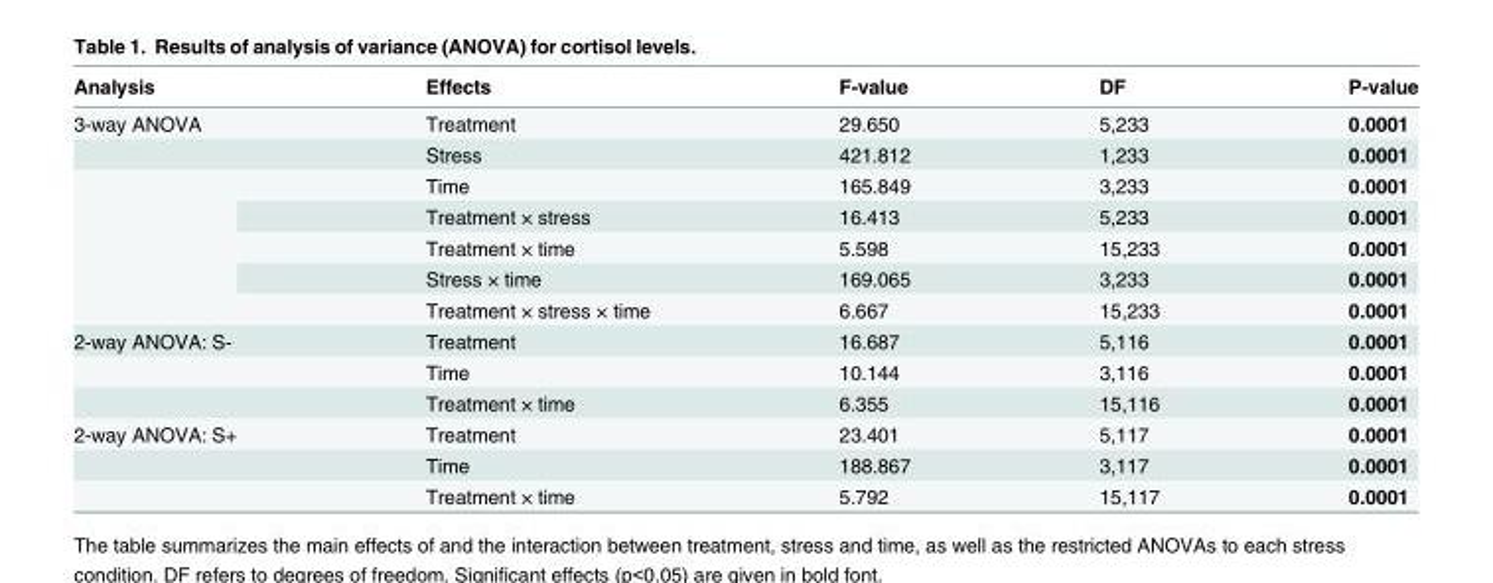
<table><thead><tr><td>Analysis</td><td>Effects</td><td>F-value</td><td>DF</td><td>P-value</td></tr></thead><tbody><tr><td rowspan="7">3-way ANOVA</td><td>Treatment</td><td>29.650</td><td>5,233</td><td>0.0001</td></tr><tr><td>Stress</td><td>421.812</td><td>1,233</td><td>0.0001</td></tr><tr><td>Time</td><td>165.849</td><td>3,233</td><td>0.0001</td></tr><tr><td>Treatment × stress</td><td>16.413</td><td>5,233</td><td>0.0001</td></tr><tr><td>Treatment × time</td><td>5.598</td><td>15,233</td><td>0.0001</td></tr><tr><td>Stress × time</td><td>169.065</td><td>3,233</td><td>0.0001</td></tr><tr><td>Treatment × stress × time</td><td>6.667</td><td>15,233</td><td>0.0001</td></tr><tr><td rowspan="3">2-way ANOVA: S-</td><td>Treatment</td><td>16.687</td><td>5,116</td><td>0.0001</td></tr><tr><td>Time</td><td>10.144</td><td>3,116</td><td>0.0001</td></tr><tr><td>Treatment × time</td><td>6.355</td><td>15,116</td><td>0.0001</td></tr><tr><td rowspan="3">2-way ANOVA: S+</td><td>Treatment</td><td>23.401</td><td>5,117</td><td>0.0001</td></tr><tr><td>Time</td><td>188.867</td><td>3,117</td><td>0.0001</td></tr><tr><td>Treatment × time</td><td>5.792</td><td>15,117</td><td>0.0001</td></tr></tbody></table>